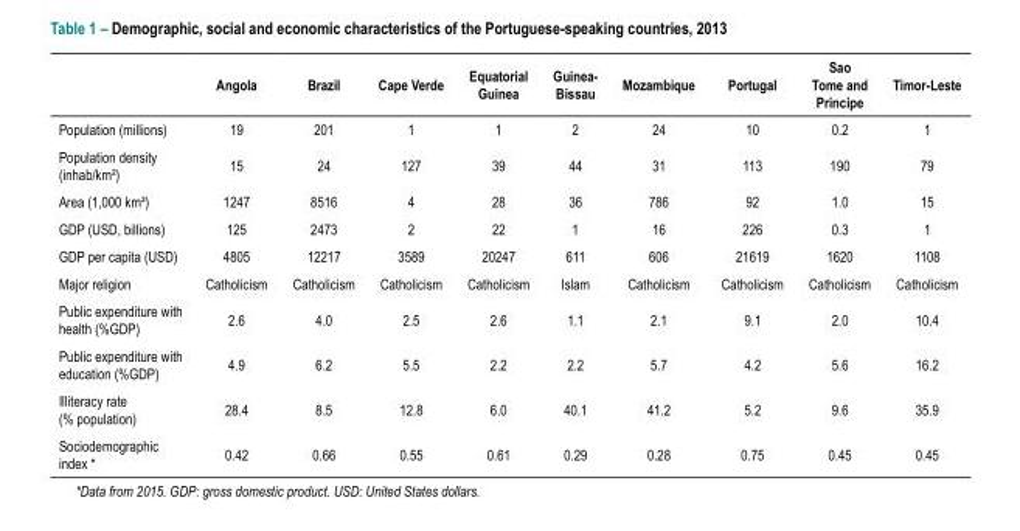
<table><thead><tr><td></td><td>Angola</td><td>Brazil</td><td>Cape Verde</td><td>Equatorial Guinea</td><td>Guinea- Bissau</td><td>Mozambique</td><td>Portugal</td><td>Sao Tome and Principe</td><td>Timor-Leste</td></tr></thead><tbody><tr><td>Population (millions)</td><td>19</td><td>201</td><td>1</td><td>1</td><td>2</td><td>24</td><td>10</td><td>0.2</td><td>1</td></tr><tr><td>Population density (inhab/km²)</td><td>15</td><td>24</td><td>127</td><td>39</td><td>44</td><td>31</td><td>113</td><td>190</td><td>79</td></tr><tr><td>Area (1,000 km²)</td><td>1247</td><td>8516</td><td>4</td><td>28</td><td>36</td><td>786</td><td>92</td><td>1.0</td><td>15</td></tr><tr><td>GDP (USD, billions)</td><td>125</td><td>2473</td><td>2</td><td>22</td><td>1</td><td>16</td><td>226</td><td>0.3</td><td>1</td></tr><tr><td>GDP per capita (USD)</td><td>4805</td><td>12217</td><td>3589</td><td>20247</td><td>611</td><td>606</td><td>21619</td><td>1620</td><td>1108</td></tr><tr><td>Major religion</td><td>Catholicism</td><td>Catholicism</td><td>Catholicism</td><td>Catholicism</td><td>Islam</td><td>Catholicism</td><td>Catholicism</td><td>Catholicism</td><td>Catholicism</td></tr><tr><td>Public expenditure with health (%GDP)</td><td>2.6</td><td>4.0</td><td>2.5</td><td>2.6</td><td>1.1</td><td>2.1</td><td>9.1</td><td>2.0</td><td>10.4</td></tr><tr><td>Public expenditure with education (%GDP)</td><td>4.9</td><td>6.2</td><td>5.5</td><td>2.2</td><td>2.2</td><td>5.7</td><td>4.2</td><td>5.6</td><td>16.2</td></tr><tr><td>Illiteracy rate (% population)</td><td>28.4</td><td>8.5</td><td>12.8</td><td>6.0</td><td>40.1</td><td>41.2</td><td>5.2</td><td>9.6</td><td>35.9</td></tr><tr><td>Sociodemographic index *</td><td>0.42</td><td>0.66</td><td>0.55</td><td>0.61</td><td>0.29</td><td>0.28</td><td>0.75</td><td>0.45</td><td>0.45</td></tr></tbody></table>